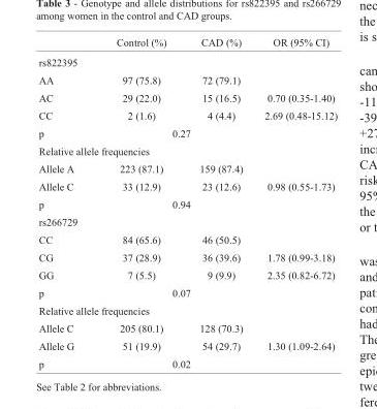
<table><thead><tr><td></td><td>Control (%)</td><td>CAD (%)</td><td>OR (95% CI)</td></tr></thead><tbody><tr><td colspan="4">rs822395</td></tr><tr><td>AA</td><td>97 (75.8)</td><td>72 (79.1)</td><td></td></tr><tr><td>AC</td><td>29 (22.0)</td><td>15 (16.5)</td><td>0.70 (0.35-1.40)</td></tr><tr><td>CC</td><td>2 (1.6)</td><td>4 (4.4)</td><td>2.69 (0.48-15.12)</td></tr><tr><td>p</td><td colspan="2">0.27</td><td></td></tr><tr><td colspan="4">Relative allele frequencies</td></tr><tr><td>Allele A</td><td>223 (87.1)</td><td>159 (87.4)</td><td></td></tr><tr><td>Allele C</td><td>33 (12.9)</td><td>23 (12.6)</td><td>0.98 (0.55-1.73)</td></tr><tr><td>p</td><td colspan="2">0.94</td><td></td></tr><tr><td colspan="4">rs266729</td></tr><tr><td>CC</td><td>84 (65.6)</td><td>46 (50.5)</td><td></td></tr><tr><td>CG</td><td>37 (28.9)</td><td>36 (39.6)</td><td>1.78 (0.99-3.18)</td></tr><tr><td>GG</td><td>7 (5.5)</td><td>9 (9.9)</td><td>2.35 (0.82-6.72)</td></tr><tr><td>p</td><td colspan="2">0.07</td><td></td></tr><tr><td colspan="4">Relative allele frequencies</td></tr><tr><td>Allele C</td><td>205 (80.1)</td><td>128 (70.3)</td><td></td></tr><tr><td>Allele G</td><td>51 (19.9)</td><td>54 (29.7)</td><td>1.30 (1.09-2.64)</td></tr><tr><td>p</td><td colspan="2">0.02</td><td></td></tr></tbody></table>